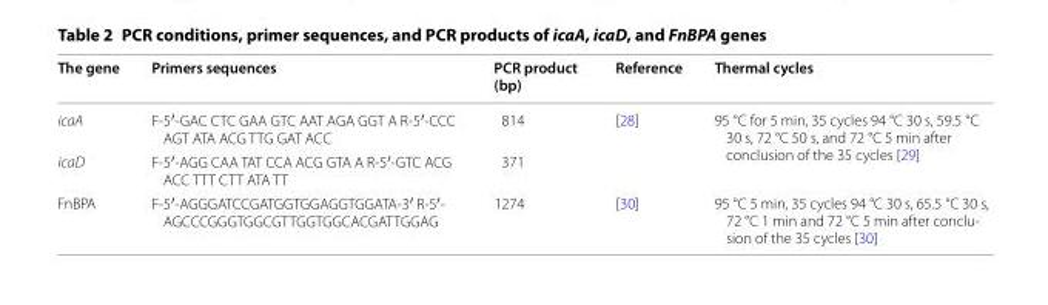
<table><thead><tr><td>The gene</td><td>Primers sequences</td><td>PCR product (bp)</td><td>Reference</td><td>Thermal cycles</td></tr></thead><tbody><tr><td>icaA</td><td>F-5′-GAC CTC GAA GTC AAT AGA GGT A R-5′-CCC AGT ATA ACG TTG GAT ACC</td><td>814</td><td rowspan="2">[28]</td><td rowspan="2">95 °C for 5 min, 35 cycles 94 °C 30 s, 59.5 °C 30 s, 72 °C 50 s, and 72 °C 5 min after conclusion of the 35 cycles [29]</td></tr><tr><td>icaD</td><td>F-5′-AGG CAA TAT CCA ACG GTA A R-5′-GTC ACG ACC TTT CTT ATA TT</td><td>371</td></tr><tr><td>FnBPA</td><td>F-5′-AGGGATCCGATGGTGGAGGTGGATA-3′ R-5′- AGCCCGGGTGGCGTTGGTGGCACGATTGGAG</td><td>1274</td><td>[30]</td><td>95 °C 5 min, 35 cycles 94 °C 30 s, 65.5 °C 30 s, 72 °C 1 min and 72 °C 5 min after conclu- sion of the 35 cycles [30]</td></tr></tbody></table>